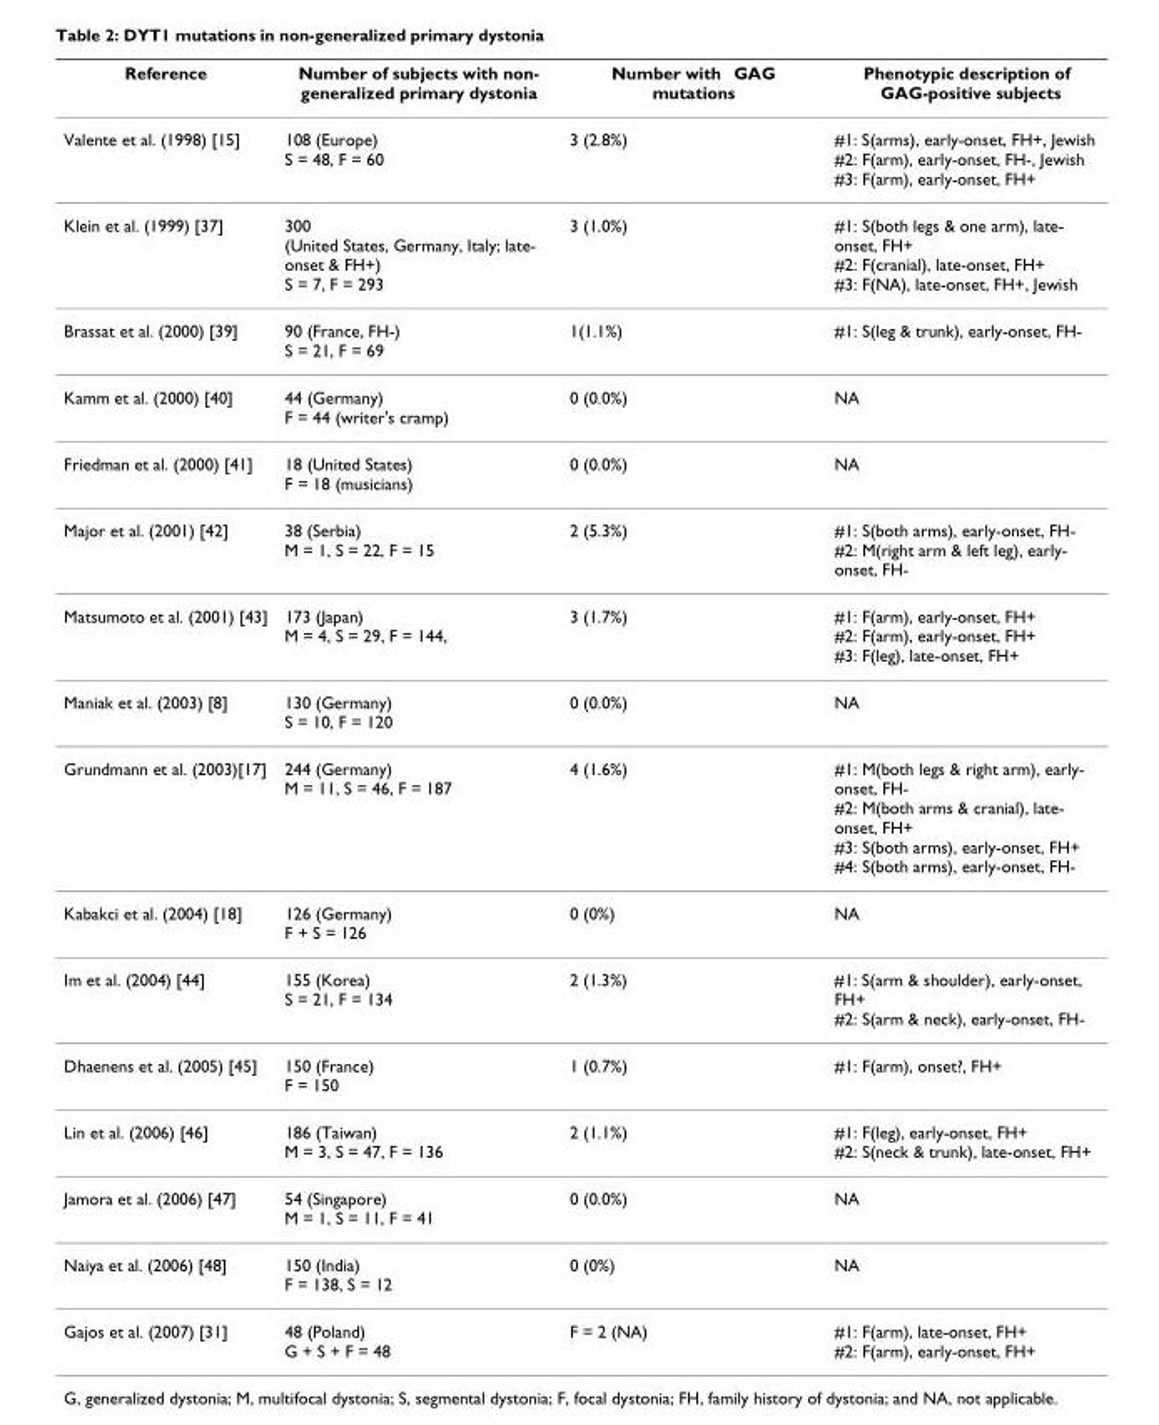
<table><thead><tr><td>Reference</td><td>Number of subjects with non- generalized primary dystonia</td><td>Number with GAG mutations</td><td>Phenotypic description of GAG-positive subjects</td></tr></thead><tbody><tr><td>Valente et al. (1998) [15]</td><td>108 (Europe) S = 48, F = 60</td><td>3 (2.8%)</td><td>#1: S(arms), early-onset, FH+, Jewish #2: F(arm), early-onset, FH-, Jewish #3: F(arm), early-onset, FH+</td></tr><tr><td>Klein et al. (1999) [37]</td><td>300 (United States, Germany, Italy; late- onset &amp; FH+) S = 7, F = 293</td><td>3 (1.0%)</td><td>#1: S(both legs &amp; one arm), late- onset, FH+ #2: F(cranial), late-onset, FH+ #3: F(NA), late-onset, FH+, Jewish</td></tr><tr><td>Brassat et al. (2000) [39]</td><td>90 (France, FH-) S = 21, F = 69</td><td>1(1.1%)</td><td>#1: S(leg &amp; trunk), early-onset, FH-</td></tr><tr><td>Kamm et al. (2000) [40]</td><td>44 (Germany) F = 44 (writer&#x27;s cramp)</td><td>0 (0.0%)</td><td>NA</td></tr><tr><td>Friedman et al. (2000) [41]</td><td>18 (United States) F = 18 (musicians)</td><td>0 (0.0%)</td><td>NA</td></tr><tr><td>Major et al. (2001) [42]</td><td>38 (Serbia) M = 1, S = 22, F = 15</td><td>2 (5.3%)</td><td>#1: S(both arms), early-onset, FH- #2: M(right arm &amp; left leg), early- onset, FH-</td></tr><tr><td>Matsumoto et al. (2001) [43]</td><td>173 (Japan) M = 4, S = 29, F = 144,</td><td>3 (1.7%)</td><td>#1: F(arm), early-onset, FH+ #2: F(arm), early-onset, FH+ #3: F(leg), late-onset, FH+</td></tr><tr><td>Maniak et al. (2003) [8]</td><td>130 (Germany) S = 10, F = 120</td><td>0 (0.0%)</td><td>NA</td></tr><tr><td>Grundmann et al. (2003)[17]</td><td>244 (Germany) M = 11, S = 46, F = 187</td><td>4 (1.6%)</td><td>#1: M(both legs &amp; right arm), early- onset, FH- #2: M(both arms &amp; cranial), late- onset, FH+ #3: S(both arms), early-onset, FH+ #4: S(both arms), early-onset, FH-</td></tr><tr><td>Kabakci et al. (2004) [18]</td><td>126 (Germany) F + S = 126</td><td>0 (0%)</td><td>NA</td></tr><tr><td>Im et al. (2004) [44]</td><td>155 (Korea) S = 21, F = 134</td><td>2 (1.3%)</td><td>#1: S(arm &amp; shoulder), early-onset, FH+ #2: S(arm &amp; neck), early-onset, FH-</td></tr><tr><td>Dhaenens et al. (2005) [45]</td><td>150 (France) F = 150</td><td>1 (0.7%)</td><td>#1: F(arm), onset?, FH+</td></tr><tr><td>Lin et al. (2006) [46]</td><td>186 (Taiwan) M = 3, S = 47, F = 136</td><td>2 (1.1%)</td><td>#1: F(leg), early-onset, FH+ #2: S(neck &amp; trunk), late-onset, FH+</td></tr><tr><td>Jamora et al. (2006) [47]</td><td>54 (Singapore) M = 1, S = 11, F = 41</td><td>0 (0.0%)</td><td>NA</td></tr><tr><td>Naiya et al. (2006) [48]</td><td>150 (India) F = 138, S = 12</td><td>0 (0%)</td><td>NA</td></tr><tr><td>Gajos et al. (2007) [31]</td><td>48 (Poland) G + S + F = 48</td><td>F = 2 (NA)</td><td>#1: F(arm), late-onset, FH+ #2: F(arm), early-onset, FH+</td></tr></tbody></table>